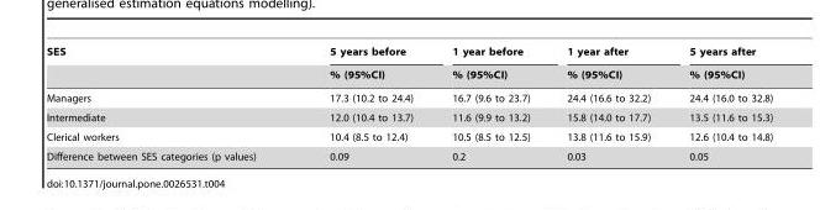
<table><thead><tr><td rowspan="2">SES</td><td rowspan="2">5 years before % (95%CI)</td><td rowspan="2">1 year before % (95%CI)</td><td rowspan="2">1 year after % (95%CI)</td><td rowspan="2">5 years after % (95%CI)</td></tr><tr></tr></thead><tbody><tr><td>Managers</td><td>17.3 (10.2 to 24.4)</td><td>16.7 (9.6 to 23.7)</td><td>24.4 (16.6 to 32.2)</td><td>24.4 (16.0 to 32.8)</td></tr><tr><td>Intermediate</td><td>12.0 (10.4 to 13.7)</td><td>11.6 (9.9 to 13.2)</td><td>15.8 (14.0 to 17.7)</td><td>13.5 (11.6 to 15.3)</td></tr><tr><td>Clerical workers</td><td>10.4 (8.5 to 12.4)</td><td>10.5 (8.5 to 12.5)</td><td>13.8 (11.6 to 15.9)</td><td>12.6 (10.4 to 14.8)</td></tr><tr><td>Difference between SES categories (p values)</td><td>0.09</td><td>0.2</td><td>0.03</td><td>0.05</td></tr></tbody></table>